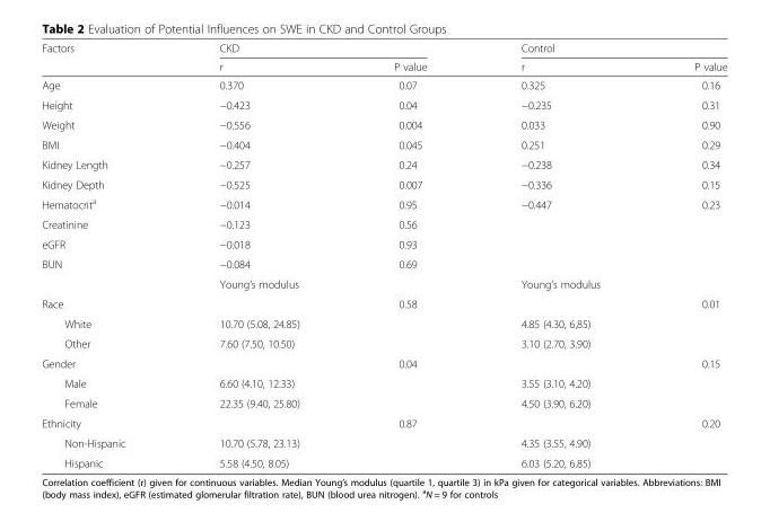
<table><thead><tr><td rowspan="2">Factors</td><td colspan="2">CKD</td><td colspan="2">Control</td></tr><tr><td>r</td><td>P value</td><td>r</td><td>P value</td></tr></thead><tbody><tr><td>Age</td><td>0.370</td><td>0.07</td><td>0.325</td><td>0.16</td></tr><tr><td>Height</td><td>−0.423</td><td>0.04</td><td>−0.235</td><td>0.31</td></tr><tr><td>Weight</td><td>−0.556</td><td>0.004</td><td>0.033</td><td>0.90</td></tr><tr><td>BMI</td><td>−0.404</td><td>0.045</td><td>0.251</td><td>0.29</td></tr><tr><td>Kidney Length</td><td>−0.257</td><td>0.24</td><td>−0.238</td><td>0.34</td></tr><tr><td>Kidney Depth</td><td>−0.525</td><td>0.007</td><td>−0.336</td><td>0.15</td></tr><tr><td>Hematocrit<sup>a</sup></td><td>−0.014</td><td>0.95</td><td>−0.447</td><td>0.23</td></tr><tr><td>Creatinine</td><td>−0.123</td><td>0.56</td><td></td><td></td></tr><tr><td>eGFR</td><td>−0.018</td><td>0.93</td><td></td><td></td></tr><tr><td rowspan="2">BUN</td><td>−0.084</td><td>0.69</td><td></td><td></td></tr><tr><td>Young’s modulus</td><td></td><td>Young’s modulus</td><td></td></tr><tr><td>Race</td><td></td><td>0.58</td><td></td><td>0.01</td></tr><tr><td>White</td><td>10.70 (5.08, 24.85)</td><td></td><td>4.85 (4.30, 6,85)</td><td></td></tr><tr><td>Other</td><td>7.60 (7.50, 10.50)</td><td></td><td>3.10 (2.70, 3.90)</td><td></td></tr><tr><td>Gender</td><td></td><td>0.04</td><td></td><td>0.15</td></tr><tr><td>Male</td><td>6.60 (4.10, 12.33)</td><td></td><td>3.55 (3.10, 4.20)</td><td></td></tr><tr><td>Female</td><td>22.35 (9.40, 25.80)</td><td></td><td>4.50 (3.90, 6.20)</td><td></td></tr><tr><td>Ethnicity</td><td></td><td>0.87</td><td></td><td>0.20</td></tr><tr><td>Non-Hispanic</td><td>10.70 (5.78, 23.13)</td><td></td><td>4.35 (3.55, 4.90)</td><td></td></tr><tr><td>Hispanic</td><td>5.58 (4.50, 8.05)</td><td></td><td>6.03 (5.20, 6.85)</td><td></td></tr></tbody></table>